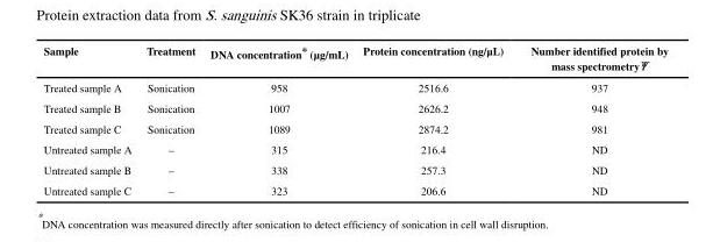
<table><thead><tr><td>Sample</td><td>Treatment</td><td>DNA concentration* (μg/mL)</td><td>Protein concentration (ng/μL)</td><td>Number identified protein by mass spectrometryѱ</td></tr></thead><tbody><tr><td>Treated sample A</td><td>Sonication</td><td>958</td><td>2516.6</td><td>937</td></tr><tr><td>Treated sample B</td><td>Sonication</td><td>1007</td><td>2626.2</td><td>948</td></tr><tr><td>Treated sample C</td><td>Sonication</td><td>1089</td><td>2874.2</td><td>981</td></tr><tr><td>Untreated sample A</td><td>–</td><td>315</td><td>216.4</td><td>ND</td></tr><tr><td>Untreated sample B</td><td>–</td><td>338</td><td>257.3</td><td>ND</td></tr><tr><td>Untreated sample C</td><td>–</td><td>323</td><td>206.6</td><td>ND</td></tr></tbody></table>